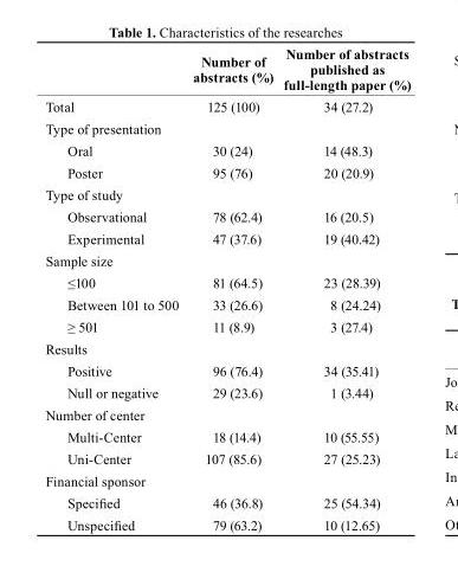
<table><thead><tr><td></td><td>Number of abstracts (%)</td><td>Number of abstracts published as full-length paper (%)</td></tr></thead><tbody><tr><td>Total</td><td>125 (100)</td><td>34 (27.2)</td></tr><tr><td colspan="3">Type of presentation</td></tr><tr><td>Oral</td><td>30 (24)</td><td>14 (48.3)</td></tr><tr><td>Poster</td><td>95 (76)</td><td>20 (20.9)</td></tr><tr><td colspan="3">Type of study</td></tr><tr><td>Observational</td><td>78 (62.4)</td><td>16 (20.5)</td></tr><tr><td>Experimental</td><td>47 (37.6)</td><td>19 (40.42)</td></tr><tr><td colspan="3">Sample size</td></tr><tr><td>≤100</td><td>81 (64.5)</td><td>23 (28.39)</td></tr><tr><td>Between 101 to 500</td><td>33 (26.6)</td><td>8 (24.24)</td></tr><tr><td>≥ 501</td><td>11 (8.9)</td><td>3 (27.4)</td></tr><tr><td colspan="3">Results</td></tr><tr><td>Positive</td><td>96 (76.4)</td><td>34 (35.41)</td></tr><tr><td>Null or negative</td><td>29 (23.6)</td><td>1 (3.44)</td></tr><tr><td colspan="3">Number of center</td></tr><tr><td>Multi-Center</td><td>18 (14.4)</td><td>10 (55.55)</td></tr><tr><td>Uni-Center</td><td>107 (85.6)</td><td>27 (25.23)</td></tr><tr><td colspan="3">Financial sponsor</td></tr><tr><td>Specified</td><td>46 (36.8)</td><td>25 (54.34)</td></tr><tr><td>Unspecified</td><td>79 (63.2)</td><td>10 (12.65)</td></tr></tbody></table>